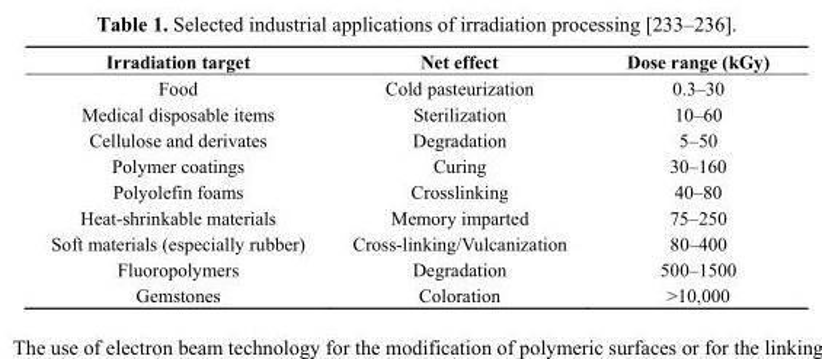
<table><thead><tr><td>Irradiation target</td><td>Net effect</td><td>Dose range (kGy)</td></tr></thead><tbody><tr><td>Food</td><td>Cold pasteurization</td><td>0.3–30</td></tr><tr><td>Medical disposable items</td><td>Sterilization</td><td>10–60</td></tr><tr><td>Cellulose and derivates</td><td>Degradation</td><td>5–50</td></tr><tr><td>Polymer coatings</td><td>Curing</td><td>30–160</td></tr><tr><td>Polyolefin foams</td><td>Crosslinking</td><td>40–80</td></tr><tr><td>Heat-shrinkable materials</td><td>Memory imparted</td><td>75–250</td></tr><tr><td>Soft materials (especially rubber)</td><td>Cross-linking/Vulcanization</td><td>80–400</td></tr><tr><td>Fluoropolymers</td><td>Degradation</td><td>500–1500</td></tr><tr><td>Gemstones</td><td>Coloration</td><td>&gt;10,000</td></tr></tbody></table>